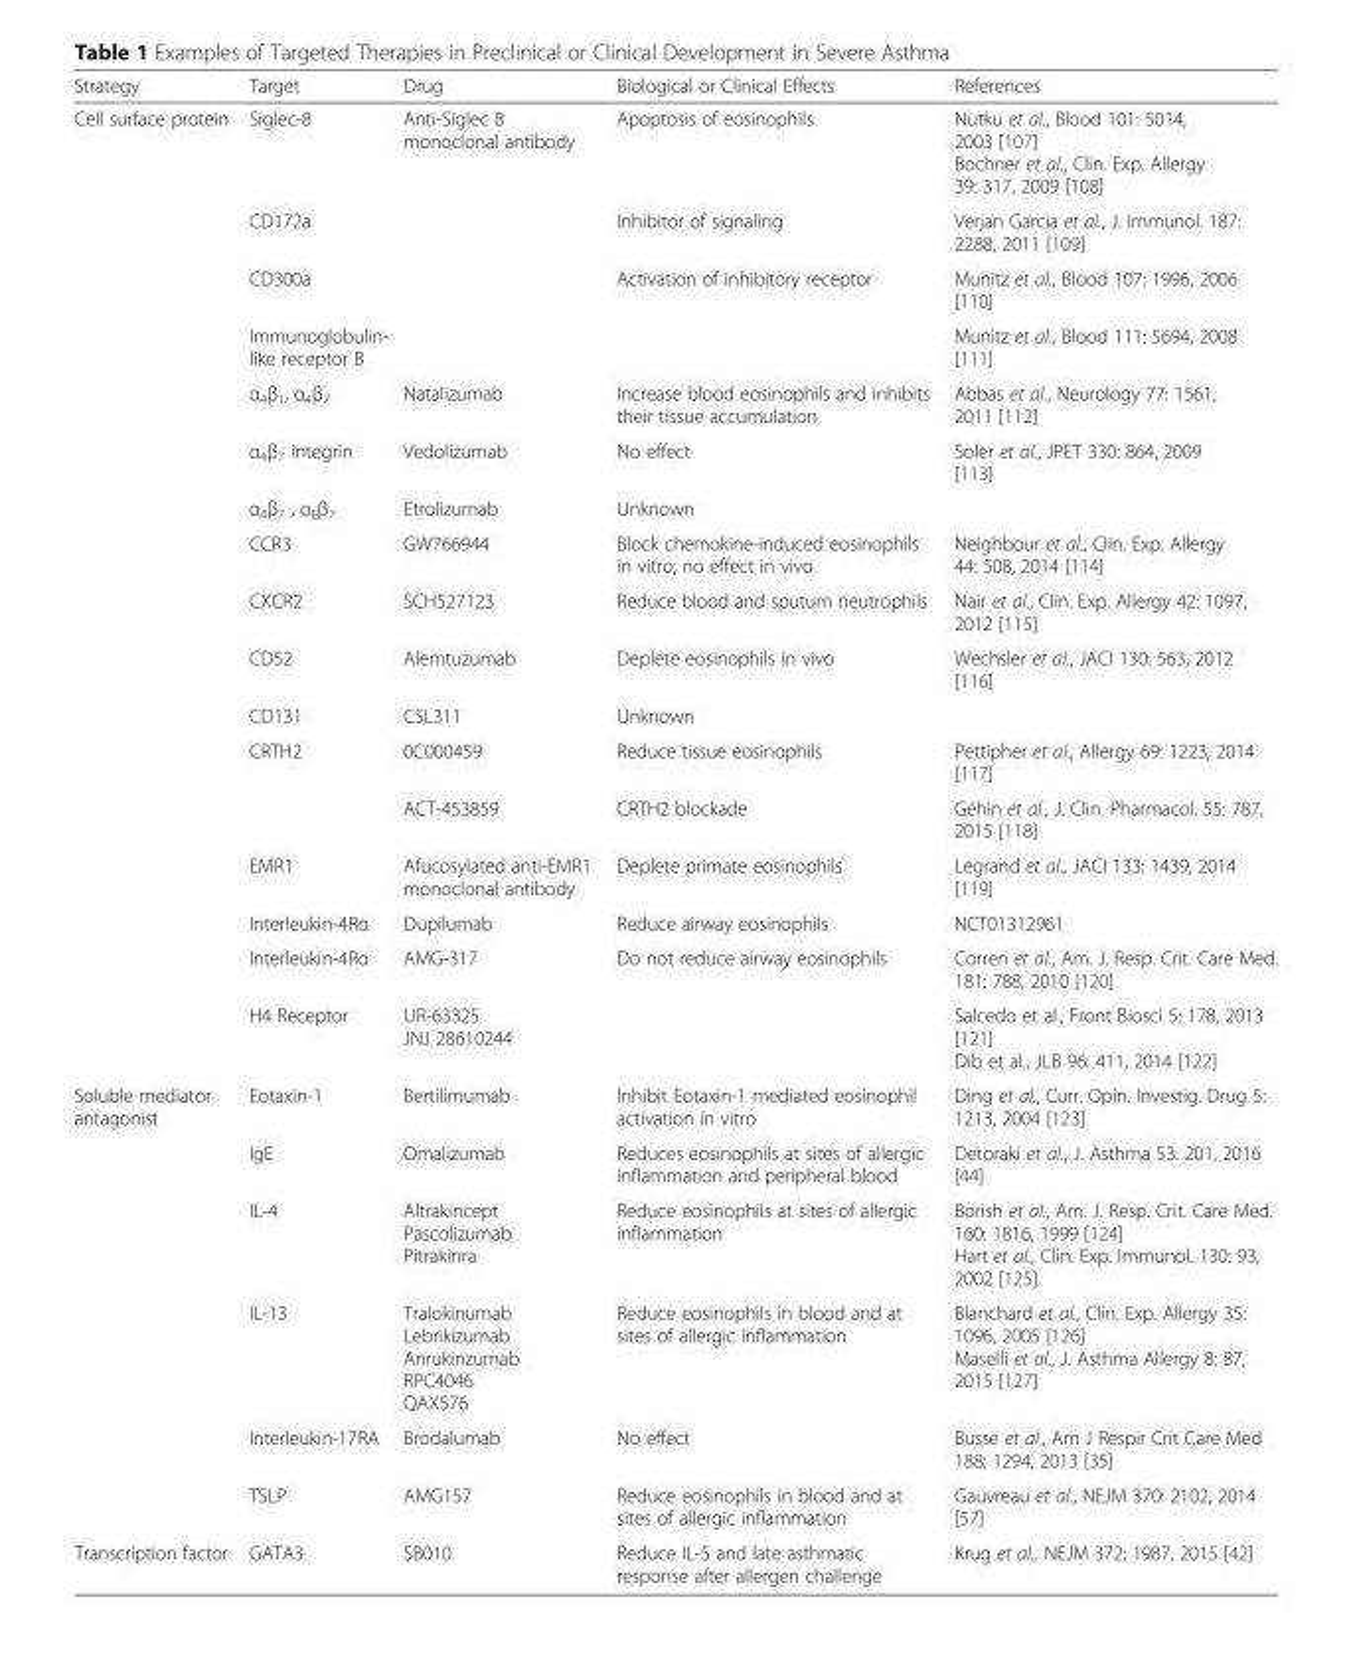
<table><thead><tr><td>Strategy</td><td>Target</td><td>Drug</td><td>Biological or Clinical Effects</td><td>References</td></tr></thead><tbody><tr><td rowspan="17">Cell surface protein</td><td>Siglec-8</td><td>Anti-Siglec 8 monoclonal antibody</td><td>Apoptosis of eosinophils</td><td>Nutku et al., Blood 101: 5014, 2003 [107] Bochner et al., Clin. Exp. Allergy 39: 317, 2009 [108]</td></tr><tr><td>CD172a</td><td></td><td>Inhibitor of signaling</td><td>Verjan Garcia et al., J. Immunol. 187: 2288, 2011 [109]</td></tr><tr><td>CD300a</td><td></td><td>Activation of inhibitory receptor</td><td>Munitz et al., Blood 107: 1996, 2006 [110]</td></tr><tr><td>Immunoglobulin- like receptor B</td><td></td><td></td><td>Munitz et al., Blood 111: 5694, 2008 [111]</td></tr><tr><td>α<sub>4</sub>β<sub>1</sub>, α<sub>4</sub>β<sub>7</sub></td><td>Natalizumab</td><td>Increase blood eosinophils and inhibits their tissue accumulation</td><td>Abbas et al., Neurology 77: 1561, 2011 [112]</td></tr><tr><td>α<sub>4</sub>β<sub>7</sub> integrin</td><td>Vedolizumab</td><td>No effect</td><td>Soler et al., JPET 330: 864, 2009 [113]</td></tr><tr><td>α<sub>4</sub>β<sub>7</sub> , α<sub>E</sub>β<sub>7</sub></td><td>Etrolizumab</td><td>Unknown</td><td></td></tr><tr><td>CCR3</td><td>GW766944</td><td>Block chemokine-induced eosinophils in vitro; no effect in vivo</td><td>Neighbour et al., Clin. Exp. Allergy 44: 508, 2014 [114]</td></tr><tr><td>CXCR2</td><td>SCH527123</td><td>Reduce blood and sputum neutrophils</td><td>Nair et al., Clin. Exp. Allergy 42: 1097, 2012 [115]</td></tr><tr><td>CD52</td><td>Alemtuzumab</td><td>Deplete eosinophils in vivo</td><td>Wechsler et al., JACI 130: 563, 2012 [116]</td></tr><tr><td>CD131</td><td>CSL311</td><td>Unknown</td><td></td></tr><tr><td>CRTH2</td><td>0C000459</td><td>Reduce tissue eosinophils</td><td>Pettipher et al., Allergy 69: 1223, 2014 [117]</td></tr><tr><td></td><td>ACT-453859</td><td>CRTH2 blockade</td><td>Géhin et al., J. Clin. Pharmacol. 55: 787, 2015 [118]</td></tr><tr><td>EMR1</td><td>Afucosylated anti-EMR1 monoclonal antibody</td><td>Deplete primate eosinophils</td><td>Legrand et al., JACI 133: 1439, 2014 [119]</td></tr><tr><td>Interleukin-4Rα</td><td>Dupilumab</td><td>Reduce airway eosinophils</td><td>NCT01312961</td></tr><tr><td>Interleukin-4Rα</td><td>AMG-317</td><td>Do not reduce airway eosinophils</td><td>Corren et al., Am. J. Resp. Crit. Care Med. 181: 788, 2010 [120]</td></tr><tr><td>H4 Receptor</td><td>UR-63325 JNJ 28610244</td><td></td><td>Salcedo et al., Front Biosci 5: 178, 2013 [121] Dib et al., JLB 96: 411, 2014 [122]</td></tr><tr><td rowspan="6">Soluble mediator antagonist</td><td>Eotaxin-1</td><td>Bertilimumab</td><td>Inhibit Eotaxin-1 mediated eosinophil activation in vitro</td><td>Ding et al., Curr. Opin. Investig. Drug 5: 1213, 2004 [123]</td></tr><tr><td>IgE</td><td>Omalizumab</td><td>Reduces eosinophils at sites of allergic inflammation and peripheral blood</td><td>Detoraki et al., J. Asthma 53: 201, 2016 [44]</td></tr><tr><td>IL-4</td><td>Altrakincept Pascolizumab Pitrakinra</td><td>Reduce eosinophils at sites of allergic inflammation</td><td>Borish et al., Am. J. Resp. Crit. Care Med. 160: 1816, 1999 [124] Hart et al., Clin. Exp. Immunol. 130: 93, 2002 [125]</td></tr><tr><td>IL-13</td><td>Tralokinumab Lebrikizumab Anrukinzumab RPC4046 QAX576</td><td>Reduce eosinophils in blood and at sites of allergic inflammation</td><td>Blanchard et al., Clin. Exp. Allergy 35: 1096, 2005 [126] Maselli et al., J. Asthma Allergy 8: 87, 2015 [127]</td></tr><tr><td>Interleukin-17RA</td><td>Brodalumab</td><td>No effect</td><td>Busse et al., Am J Respir Crit Care Med 188: 1294, 2013 [35]</td></tr><tr><td>TSLP</td><td>AMG157</td><td>Reduce eosinophils in blood and at sites of allergic inflammation</td><td>Gauvreau et al., NEJM 370: 2102, 2014 [57]</td></tr><tr><td>Transcription factor</td><td>GATA3</td><td>SB010</td><td>Reduce IL-5 and late asthmatic response after allergen challenge</td><td>Krug et al., NEJM 372: 1987, 2015 [42]</td></tr></tbody></table>